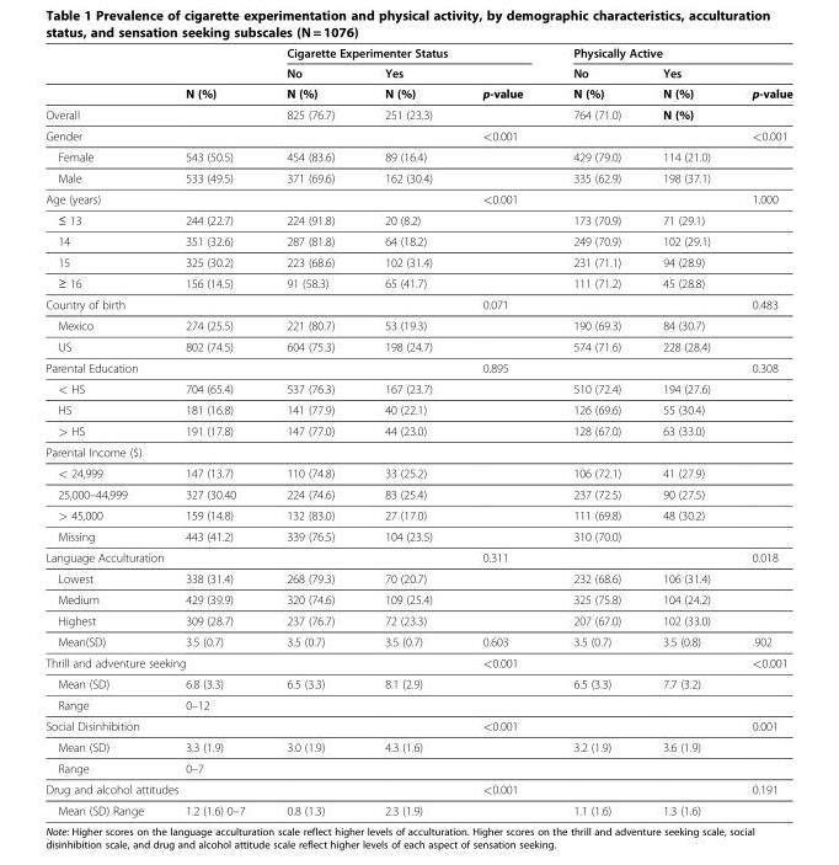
<table><thead><tr><td rowspan="2"></td><td rowspan="2"></td><td colspan="3">Cigarette Experimenter Status</td><td colspan="3">Physically Active</td></tr><tr><td>No</td><td>Yes</td><td></td><td>No</td><td>Yes</td><td></td></tr></thead><tbody><tr><td></td><td>N (%)</td><td>N (%)</td><td>N (%)</td><td>p-value</td><td>N (%)</td><td>N (%)</td><td>p-value</td></tr><tr><td>Overall</td><td></td><td>825 (76.7)</td><td>251 (23.3)</td><td></td><td>764 (71.0)</td><td>N (%)</td><td></td></tr><tr><td>Gender</td><td></td><td></td><td></td><td>&lt;0.001</td><td></td><td></td><td>&lt;0.001</td></tr><tr><td>Female</td><td>543 (50.5)</td><td>454 (83.6)</td><td>89 (16.4)</td><td></td><td>429 (79.0)</td><td>114 (21.0)</td><td></td></tr><tr><td>Male</td><td>533 (49.5)</td><td>371 (69.6)</td><td>162 (30.4)</td><td></td><td>335 (62.9)</td><td>198 (37.1)</td><td></td></tr><tr><td>Age (years)</td><td></td><td></td><td></td><td>&lt;0.001</td><td></td><td></td><td>1.000</td></tr><tr><td>≤ 13</td><td>244 (22.7)</td><td>224 (91.8)</td><td>20 (8.2)</td><td></td><td>173 (70.9)</td><td>71 (29.1)</td><td></td></tr><tr><td>14</td><td>351 (32.6)</td><td>287 (81.8)</td><td>64 (18.2)</td><td></td><td>249 (70.9)</td><td>102 (29.1)</td><td></td></tr><tr><td>15</td><td>325 (30.2)</td><td>223 (68.6)</td><td>102 (31.4)</td><td></td><td>231 (71.1)</td><td>94 (28.9)</td><td></td></tr><tr><td>≥ 16</td><td>156 (14.5)</td><td>91 (58.3)</td><td>65 (41.7)</td><td></td><td>111 (71.2)</td><td>45 (28.8)</td><td></td></tr><tr><td colspan="2">Country of birth</td><td></td><td></td><td>0.071</td><td></td><td></td><td>0.483</td></tr><tr><td>Mexico</td><td>274 (25.5)</td><td>221 (80.7)</td><td>53 (19.3)</td><td></td><td>190 (69.3)</td><td>84 (30.7)</td><td></td></tr><tr><td>US</td><td>802 (74.5)</td><td>604 (75.3)</td><td>198 (24.7)</td><td></td><td>574 (71.6)</td><td>228 (28.4)</td><td></td></tr><tr><td colspan="2">Parental Education</td><td></td><td></td><td>0.895</td><td></td><td></td><td>0.308</td></tr><tr><td>&lt; HS</td><td>704 (65.4)</td><td>537 (76.3)</td><td>167 (23.7)</td><td></td><td>510 (72.4)</td><td>194 (27.6)</td><td></td></tr><tr><td>HS</td><td>181 (16.8)</td><td>141 (77.9)</td><td>40 (22.1)</td><td></td><td>126 (69.6)</td><td>55 (30.4)</td><td></td></tr><tr><td>&gt; HS</td><td>191 (17.8)</td><td>147 (77.0)</td><td>44 (23.0)</td><td></td><td>128 (67.0)</td><td>63 (33.0)</td><td></td></tr><tr><td colspan="8">Parental Income ($)</td></tr><tr><td>&lt; 24,999</td><td>147 (13.7)</td><td>110 (74.8)</td><td>33 (25.2)</td><td></td><td>106 (72.1)</td><td>41 (27.9)</td><td></td></tr><tr><td>25,000–44,999</td><td>327 (30.40</td><td>224 (74.6)</td><td>83 (25.4)</td><td></td><td>237 (72.5)</td><td>90 (27.5)</td><td></td></tr><tr><td>&gt; 45,000</td><td>159 (14.8)</td><td>132 (83.0)</td><td>27 (17.0)</td><td></td><td>111 (69.8)</td><td>48 (30.2)</td><td></td></tr><tr><td>Missing</td><td>443 (41.2)</td><td>339 (76.5)</td><td>104 (23.5)</td><td></td><td>310 (70.0)</td><td></td><td></td></tr><tr><td colspan="2">Language Acculturation</td><td></td><td></td><td>0.311</td><td></td><td></td><td>0.018</td></tr><tr><td>Lowest</td><td>338 (31.4)</td><td>268 (79.3)</td><td>70 (20.7)</td><td></td><td>232 (68.6)</td><td>106 (31.4)</td><td></td></tr><tr><td>Medium</td><td>429 (39.9)</td><td>320 (74.6)</td><td>109 (25.4)</td><td></td><td>325 (75.8)</td><td>104 (24.2)</td><td></td></tr><tr><td>Highest</td><td>309 (28.7)</td><td>237 (76.7)</td><td>72 (23.3)</td><td></td><td>207 (67.0)</td><td>102 (33.0)</td><td></td></tr><tr><td>Mean(SD)</td><td>3.5 (0.7)</td><td>3.5 (0.7)</td><td>3.5 (0.7)</td><td>0.603</td><td>3.5 (0.7)</td><td>3.5 (0.8)</td><td>.902</td></tr><tr><td colspan="2">Thrill and adventure seeking</td><td></td><td></td><td>&lt;0.001</td><td></td><td></td><td>&lt;0.001</td></tr><tr><td>Mean (SD)</td><td>6.8 (3.3)</td><td>6.5 (3.3)</td><td>8.1 (2.9)</td><td></td><td>6.5 (3.3)</td><td>7.7 (3.2)</td><td></td></tr><tr><td>Range</td><td>0–12</td><td></td><td></td><td></td><td></td><td></td><td></td></tr><tr><td colspan="2">Social Disinhibition</td><td></td><td></td><td>&lt;0.001</td><td></td><td></td><td>0.001</td></tr><tr><td>Mean (SD)</td><td>3.3 (1.9)</td><td>3.0 (1.9)</td><td>4.3 (1.6)</td><td></td><td>3.2 (1.9)</td><td>3.6 (1.9)</td><td></td></tr><tr><td>Range</td><td>0–7</td><td></td><td></td><td></td><td></td><td></td><td></td></tr><tr><td colspan="3">Drug and alcohol attitudes</td><td></td><td>&lt;0.001</td><td></td><td></td><td>0.191</td></tr><tr><td>Mean (SD) Range</td><td>1.2 (1.6) 0–7</td><td>0.8 (1.3)</td><td>2.3 (1.9)</td><td></td><td>1.1 (1.6)</td><td>1.3 (1.6)</td><td></td></tr></tbody></table>